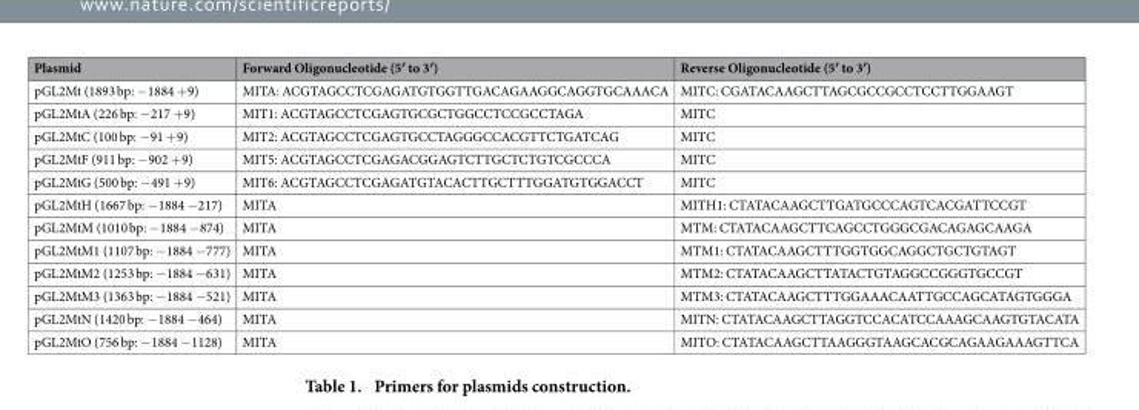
<table><thead><tr><td>Plasmid</td><td>Forward Oligonucleotide (5′ to 3′)</td><td>Reverse Oligonucleotide (5′ to 3′)</td></tr></thead><tbody><tr><td>pGL2Mt (1893 bp: − 1884 + 9)</td><td>MITA: ACGTAGCCTCGAGATGTGGTTGACAGAAGGCAGGTGCAAACA</td><td>MITC: CGATACAAGCTTAGCGCCGCCTCCTTGGAAGT</td></tr><tr><td>pGL2MtA (226 bp: − 217 + 9)</td><td>MIT1: ACGTAGCCTCGAGTGCGCTGGCCTCCGCCTAGA</td><td>MITC</td></tr><tr><td>pGL2MtC (100 bp: − 91 + 9)</td><td>MIT2: ACGTAGCCTCGAGTGCCTAGGGCCACGTTCTGATCAG</td><td>MITC</td></tr><tr><td>pGL2MtF (911 bp: − 902 + 9)</td><td>MIT5: ACGTAGCCTCGAGACGGAGTCTTGCTCTGTCGCCCA</td><td>MITC</td></tr><tr><td>pGL2MtG (500 bp: − 491 + 9)</td><td>MIT6: ACGTAGCCTCGAGATGTACACTTGCTTTGGATGTGGACCT</td><td>MITC</td></tr><tr><td>pGL2MtH (1667 bp: − 1884 − 217)</td><td>MITA</td><td>MITH1: CTATACAAGCTTGATGCCCAGTCACGATTCCGT</td></tr><tr><td>pGL2MtM (1010 bp: − 1884 − 874)</td><td>MITA</td><td>MTM: CTATACAAGCTTCAGCCTGGGCGACAGAGCAAGA</td></tr><tr><td>pGL2MtM1 (1107 bp: − 1884 − 777)</td><td>MITA</td><td>MTM1: CTATACAAGCTTTGGTGGCAGGCTGCTGTAGT</td></tr><tr><td>pGL2MtM2 (1253 bp: − 1884 − 631)</td><td>MITA</td><td>MTM2: CTATACAAGCTTATACTGTAGGCCGGGTGCCGT</td></tr><tr><td>pGL2MtM3 (1363 bp: − 1884 − 521)</td><td>MITA</td><td>MTM3: CTATACAAGCTTTGGAAACAATTGCCAGCATAGTGGGA</td></tr><tr><td>pGL2MtN (1420 bp: − 1884 − 464)</td><td>MITA</td><td>MITN: CTATACAAGCTTAGGTCCACATCCAAAGCAAGTGTACATA</td></tr><tr><td>pGL2MtO (756 bp: − 1884 − 1128)</td><td>MITA</td><td>MITO: CTATACAAGCTTAAGGGTAAGCACGCAGAAGAAAGTTCA</td></tr></tbody></table>